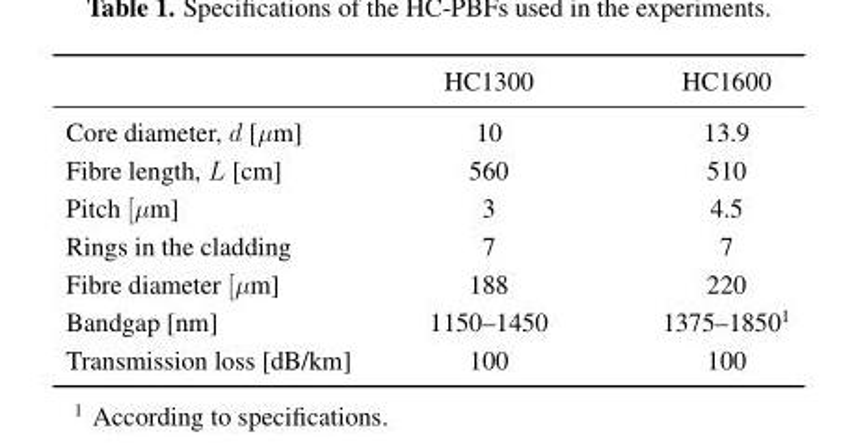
<table><thead><tr><td></td><td>HC1300</td><td>HC1600</td></tr></thead><tbody><tr><td>Core diameter, d [µm]</td><td>10</td><td>13.9</td></tr><tr><td>Fibre length, L [cm]</td><td>560</td><td>510</td></tr><tr><td>Pitch [µm]</td><td>3</td><td>4.5</td></tr><tr><td>Rings in the cladding</td><td>7</td><td>7</td></tr><tr><td>Fibre diameter [µm]</td><td>188</td><td>220</td></tr><tr><td>Bandgap [nm]</td><td>1150–1450</td><td>1375–1850<sup>1</sup></td></tr><tr><td>Transmission loss [dB/km]</td><td>100</td><td>100</td></tr></tbody></table>